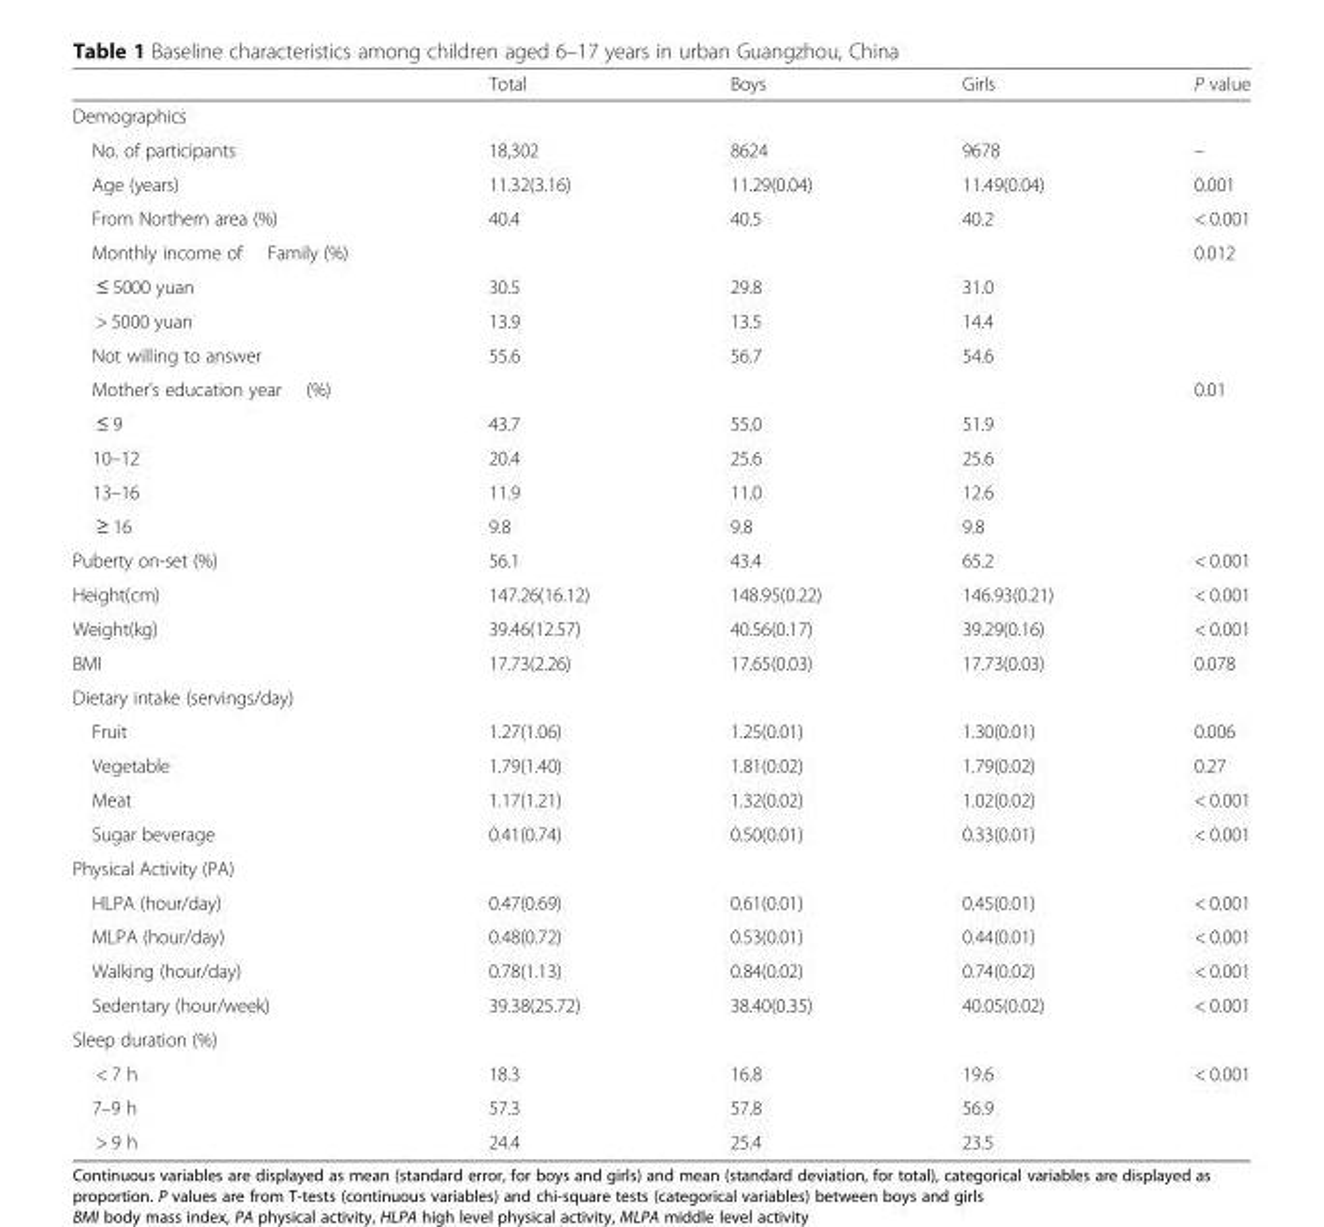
<table><thead><tr><td></td><td>Total</td><td>Boys</td><td>Girls</td><td>P value</td></tr></thead><tbody><tr><td colspan="5">Demographics</td></tr><tr><td>No. of participants</td><td>18,302</td><td>8624</td><td>9678</td><td>–</td></tr><tr><td>Age (years)</td><td>11.32(3.16)</td><td>11.29(0.04)</td><td>11.49(0.04)</td><td>0.001</td></tr><tr><td>From Northern area (%)</td><td>40.4</td><td>40.5</td><td>40.2</td><td>&lt; 0.001</td></tr><tr><td>Monthly income of Family (%)</td><td></td><td></td><td></td><td>0.012</td></tr><tr><td>≤ 5000 yuan</td><td>30.5</td><td>29.8</td><td>31.0</td><td></td></tr><tr><td>&gt; 5000 yuan</td><td>13.9</td><td>13.5</td><td>14.4</td><td></td></tr><tr><td>Not willing to answer</td><td>55.6</td><td>56.7</td><td>54.6</td><td></td></tr><tr><td>Mother’s education year (%)</td><td></td><td></td><td></td><td>0.01</td></tr><tr><td>≤ 9</td><td>43.7</td><td>55.0</td><td>51.9</td><td></td></tr><tr><td>10–12</td><td>20.4</td><td>25.6</td><td>25.6</td><td></td></tr><tr><td>13–16</td><td>11.9</td><td>11.0</td><td>12.6</td><td></td></tr><tr><td>≥ 16</td><td>9.8</td><td>9.8</td><td>9.8</td><td></td></tr><tr><td>Puberty on-set (%)</td><td>56.1</td><td>43.4</td><td>65.2</td><td>&lt; 0.001</td></tr><tr><td>Height(cm)</td><td>147.26(16.12)</td><td>148.95(0.22)</td><td>146.93(0.21)</td><td>&lt; 0.001</td></tr><tr><td>Weight(kg)</td><td>39.46(12.57)</td><td>40.56(0.17)</td><td>39.29(0.16)</td><td>&lt; 0.001</td></tr><tr><td>BMI</td><td>17.73(2.26)</td><td>17.65(0.03)</td><td>17.73(0.03)</td><td>0.078</td></tr><tr><td colspan="5">Dietary intake (servings/day)</td></tr><tr><td>Fruit</td><td>1.27(1.06)</td><td>1.25(0.01)</td><td>1.30(0.01)</td><td>0.006</td></tr><tr><td>Vegetable</td><td>1.79(1.40)</td><td>1.81(0.02)</td><td>1.79(0.02)</td><td>0.27</td></tr><tr><td>Meat</td><td>1.17(1.21)</td><td>1.32(0.02)</td><td>1.02(0.02)</td><td>&lt; 0.001</td></tr><tr><td>Sugar beverage</td><td>0.41(0.74)</td><td>0.50(0.01)</td><td>0.33(0.01)</td><td>&lt; 0.001</td></tr><tr><td colspan="5">Physical Activity (PA)</td></tr><tr><td>HLPA (hour/day)</td><td>0.47(0.69)</td><td>0.61(0.01)</td><td>0.45(0.01)</td><td>&lt; 0.001</td></tr><tr><td>MLPA (hour/day)</td><td>0.48(0.72)</td><td>0.53(0.01)</td><td>0.44(0.01)</td><td>&lt; 0.001</td></tr><tr><td>Walking (hour/day)</td><td>0.78(1.13)</td><td>0.84(0.02)</td><td>0.74(0.02)</td><td>&lt; 0.001</td></tr><tr><td>Sedentary (hour/week)</td><td>39.38(25.72)</td><td>38.40(0.35)</td><td>40.05(0.02)</td><td>&lt; 0.001</td></tr><tr><td colspan="5">Sleep duration (%)</td></tr><tr><td>&lt; 7 h</td><td>18.3</td><td>16.8</td><td>19.6</td><td rowspan="3">&lt; 0.001</td></tr><tr><td>7–9 h</td><td>57.3</td><td>57.8</td><td>56.9</td></tr><tr><td>&gt; 9 h</td><td>24.4</td><td>25.4</td><td>23.5</td></tr></tbody></table>